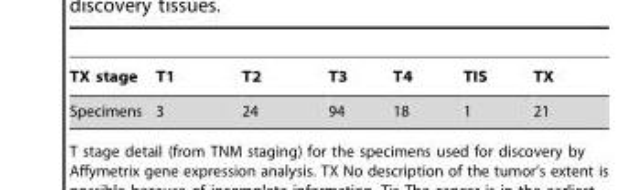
<table><thead><tr><td>TX stage</td><td>T1</td><td>T2</td><td>T3</td><td>T4</td><td>TIS</td><td>TX</td></tr></thead><tbody><tr><td>Specimens</td><td>3</td><td>24</td><td>94</td><td>18</td><td>1</td><td>21</td></tr></tbody></table>